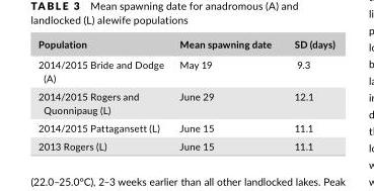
<table><thead><tr><td>Population</td><td>Mean spawning date</td><td>SD (days)</td></tr></thead><tbody><tr><td>2014/2015 Bride and Dodge (A)</td><td>May 19</td><td>9.3</td></tr><tr><td>2014/2015 Rogers and Quonnipaug (L)</td><td>June 29</td><td>12.1</td></tr><tr><td>2014/2015 Pattagansett (L)</td><td>June 15</td><td>11.1</td></tr><tr><td>2013 Rogers (L)</td><td>June 15</td><td>11.1</td></tr></tbody></table>